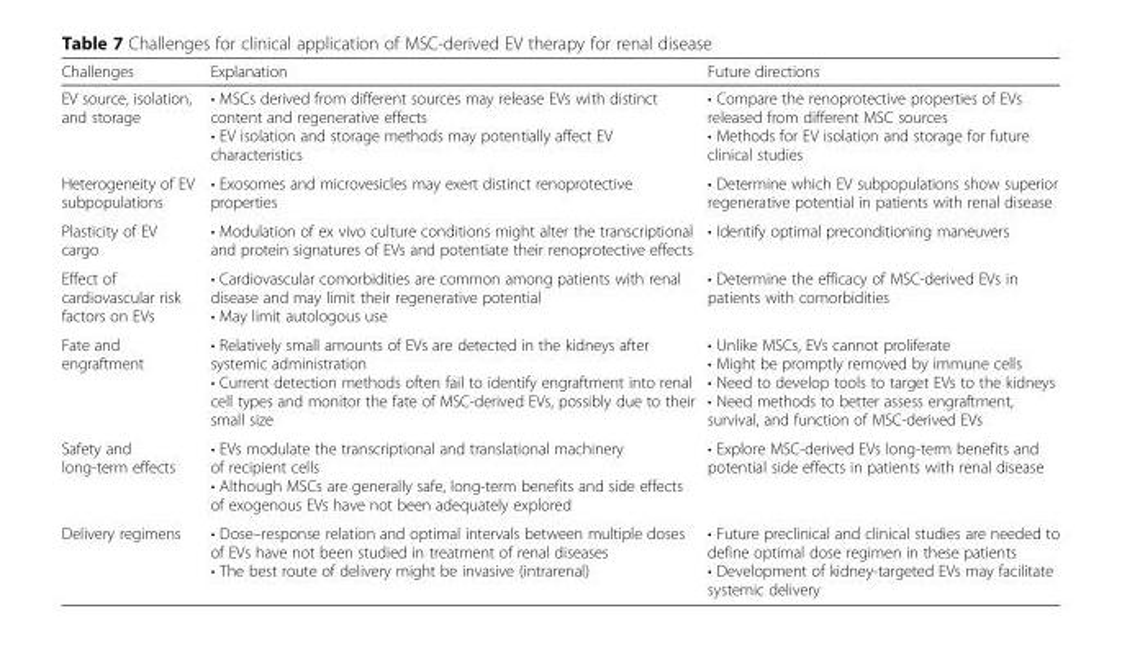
<table><thead><tr><td>Challenges</td><td>Explanation</td><td>Future directions</td></tr></thead><tbody><tr><td>EV source, isolation, and storage</td><td>• MSCs derived from different sources may release EVs with distinct content and regenerative effects • EV isolation and storage methods may potentially affect EV characteristics</td><td>• Compare the renoprotective properties of EVs released from different MSC sources • Methods for EV isolation and storage for future clinical studies</td></tr><tr><td>Heterogeneity of EV subpopulations</td><td>• Exosomes and microvesicles may exert distinct renoprotective properties</td><td>• Determine which EV subpopulations show superior regenerative potential in patients with renal disease</td></tr><tr><td>Plasticity of EV cargo</td><td>• Modulation of ex vivo culture conditions might alter the transcriptional and protein signatures of EVs and potentiate their renoprotective effects</td><td>• Identify optimal preconditioning maneuvers</td></tr><tr><td>Effect of cardiovascular risk factors on EVs</td><td>• Cardiovascular comorbidities are common among patients with renal disease and may limit their regenerative potential • May limit autologous use</td><td>• Determine the efficacy of MSC-derived EVs in patients with comorbidities</td></tr><tr><td>Fate and engraftment</td><td>• Relatively small amounts of EVs are detected in the kidneys after systemic administration • Current detection methods often fail to identify engraftment into renal cell types and monitor the fate of MSC-derived EVs, possibly due to their small size</td><td>• Unlike MSCs, EVs cannot proliferate • Might be promptly removed by immune cells • Need to develop tools to target EVs to the kidneys • Need methods to better assess engraftment, survival, and function of MSC-derived EVs</td></tr><tr><td>Safety and long-term effects</td><td>• EVs modulate the transcriptional and translational machinery of recipient cells • Although MSCs are generally safe, long-term benefits and side effects of exogenous EVs have not been adequately explored</td><td>• Explore MSC-derived EVs long-term benefits and potential side effects in patients with renal disease</td></tr><tr><td>Delivery regimens</td><td>• Dose–response relation and optimal intervals between multiple doses of EVs have not been studied in treatment of renal diseases • The best route of delivery might be invasive (intrarenal)</td><td>• Future preclinical and clinical studies are needed to define optimal dose regimen in these patients • Development of kidney-targeted EVs may facilitate systemic delivery</td></tr></tbody></table>